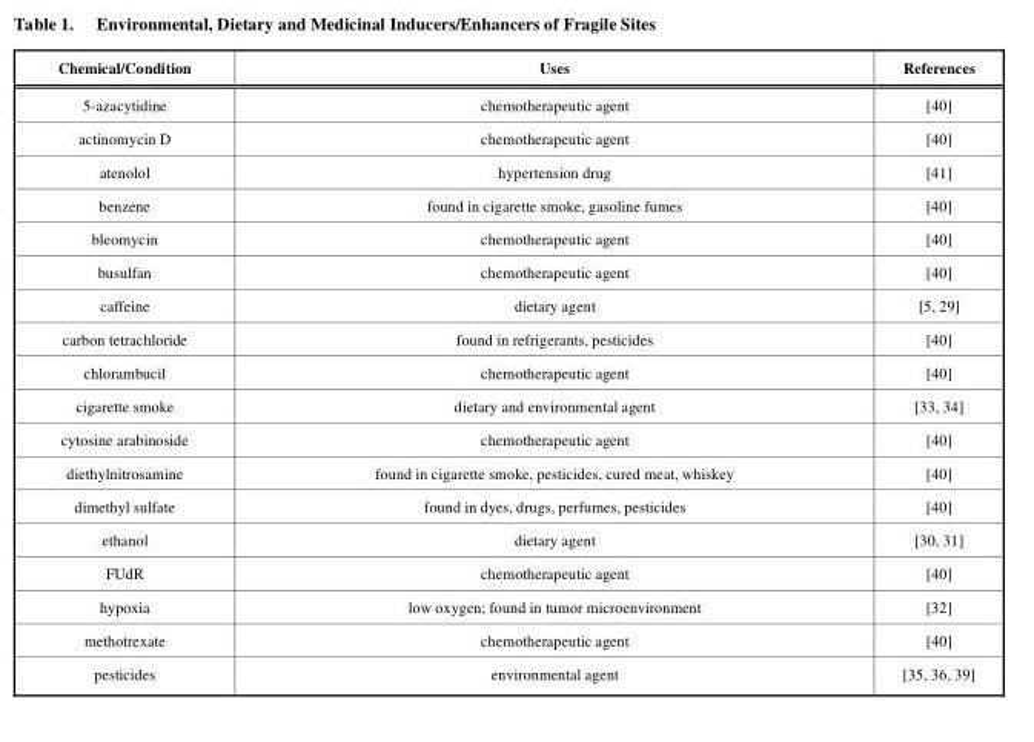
<table><thead><tr><td>Chemical/Condition</td><td>Uses</td><td>References</td></tr></thead><tbody><tr><td>5-azacytidine</td><td>chemotherapeutic agent</td><td>[40]</td></tr><tr><td>actinomycin D</td><td>chemotherapeutic agent</td><td>[40]</td></tr><tr><td>atenolol</td><td>hypertension drug</td><td>[41]</td></tr><tr><td>benzene</td><td>found in cigarette smoke, gasoline fumes</td><td>[40]</td></tr><tr><td>bleomycin</td><td>chemotherapeutic agent</td><td>[40]</td></tr><tr><td>busulfan</td><td>chemotherapeutic agent</td><td>[40]</td></tr><tr><td>caffeine</td><td>dietary agent</td><td>[5, 29]</td></tr><tr><td>carbon tetrachloride</td><td>found in refrigerants, pesticides</td><td>[40]</td></tr><tr><td>chlorambucil</td><td>chemotherapeutic agent</td><td>[40]</td></tr><tr><td>cigarette smoke</td><td>dietary and environmental agent</td><td>[33, 34]</td></tr><tr><td>cytosine arabinoside</td><td>chemotherapeutic agent</td><td>[40]</td></tr><tr><td>diethylnitrosamine</td><td>found in cigarette smoke, pesticides, cured meat, whiskey</td><td>[40]</td></tr><tr><td>dimethyl sulfate</td><td>found in dyes, drugs, perfumes, pesticides</td><td>[40]</td></tr><tr><td>ethanol</td><td>dietary agent</td><td>[30, 31]</td></tr><tr><td>FUdR</td><td>chemotherapeutic agent</td><td>[40]</td></tr><tr><td>hypoxia</td><td>low oxygen; found in tumor microenvironment</td><td>[32]</td></tr><tr><td>methotrexate</td><td>chemotherapeutic agent</td><td>[40]</td></tr><tr><td>pesticides</td><td>environmental agent</td><td>[35, 36, 39]</td></tr></tbody></table>